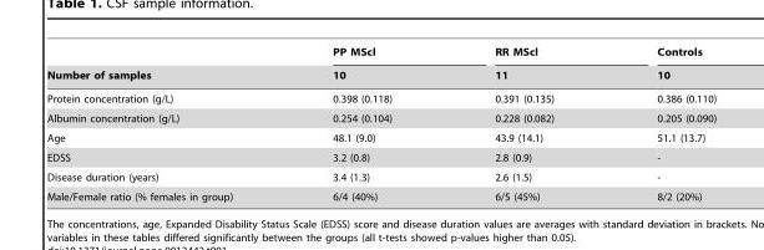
<table><thead><tr><td rowspan="2">Number of samples</td><td rowspan="2">PP MScl 10</td><td rowspan="2">RR MScl 11</td><td rowspan="2">Controls 10</td></tr><tr></tr></thead><tbody><tr><td>Protein concentration (g/L)</td><td>0.398 (0.118)</td><td>0.391 (0.135)</td><td>0.386 (0.110)</td></tr><tr><td>Albumin concentration (g/L)</td><td>0.254 (0.104)</td><td>0.228 (0.082)</td><td>0.205 (0.090)</td></tr><tr><td>Age</td><td>48.1 (9.0)</td><td>43.9 (14.1)</td><td>51.1 (13.7)</td></tr><tr><td>EDSS</td><td>3.2 (0.8)</td><td>2.8 (0.9)</td><td>-</td></tr><tr><td>Disease duration (years)</td><td>3.4 (1.3)</td><td>2.6 (1.5)</td><td>-</td></tr><tr><td>Male/Female ratio (% females in group)</td><td>6/4 (40%)</td><td>6/5 (45%)</td><td>8/2 (20%)</td></tr></tbody></table>